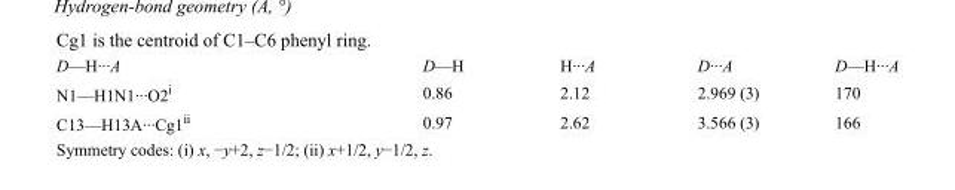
<table><tbody><tr><td>D—H···A</td><td>D—H</td><td>H···A</td><td>D···A</td><td>D—H···A</td></tr><tr><td>N1—H1N1···O2<sup>i</sup></td><td>0.86</td><td>2.12</td><td>2.969 (3)</td><td>170</td></tr><tr><td>C13—H13A···Cg1<sup>ii</sup></td><td>0.97</td><td>2.62</td><td>3.566 (3)</td><td>166</td></tr></tbody></table>